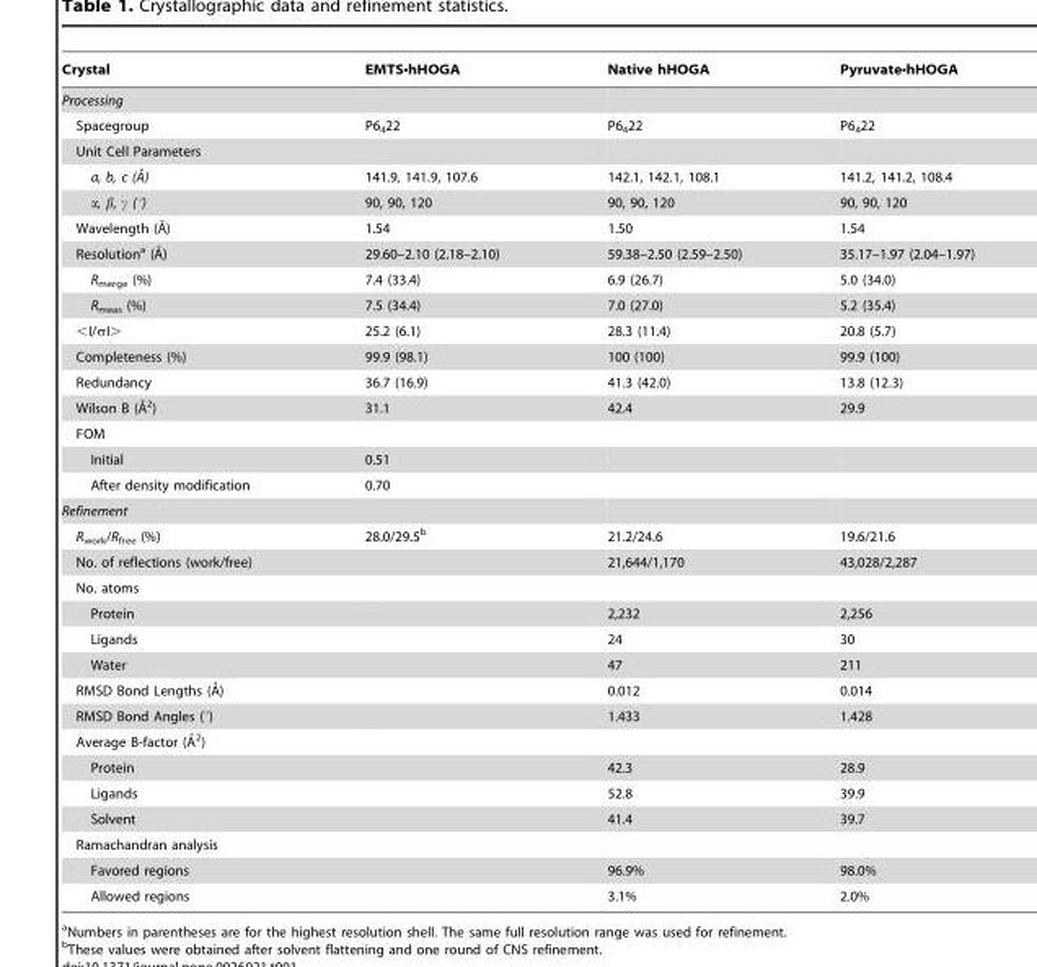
<table><thead><tr><td>Crystal</td><td>EMTS•hHOGA</td><td>Native hHOGA</td><td>Pyruvate•hHOGA</td></tr></thead><tbody><tr><td colspan="4">Processing</td></tr><tr><td>Spacegroup</td><td>P6<sub>4</sub>22</td><td>P6<sub>4</sub>22</td><td>P6<sub>4</sub>22</td></tr><tr><td colspan="4">Unit Cell Parameters</td></tr><tr><td>a, b, c (A˚)</td><td>141.9, 141.9, 107.6</td><td>142.1, 142.1, 108.1</td><td>141.2, 141.2, 108.4</td></tr><tr><td>α, β, γ (°)</td><td>90, 90, 120</td><td>90, 90, 120</td><td>90, 90, 120</td></tr><tr><td>Wavelength (A˚)</td><td>1.54</td><td>1.50</td><td>1.54</td></tr><tr><td>Resolutiona (A˚)</td><td>29.60–2.10 (2.18–2.10)</td><td>59.38–2.50 (2.59–2.50)</td><td>35.17–1.97 (2.04–1.97)</td></tr><tr><td>R<sub>merge</sub> (%)</td><td>7.4 (33.4)</td><td>6.9 (26.7)</td><td>5.0 (34.0)</td></tr><tr><td>R<sub>meas</sub> (%)</td><td>7.5 (34.4)</td><td>7.0 (27.0)</td><td>5.2 (35.4)</td></tr><tr><td>&lt;I/σI&gt;</td><td>25.2 (6.1)</td><td>28.3 (11.4)</td><td>20.8 (5.7)</td></tr><tr><td>Completeness (%)</td><td>99.9 (98.1)</td><td>100 (100)</td><td>99.9 (100)</td></tr><tr><td>Redundancy</td><td>36.7 (16.9)</td><td>41.3 (42.0)</td><td>13.8 (12.3)</td></tr><tr><td>Wilson B (A˚2)</td><td>31.1</td><td>42.4</td><td>29.9</td></tr><tr><td colspan="4">FOM</td></tr><tr><td>Initial</td><td>0.51</td><td></td><td></td></tr><tr><td>After density modification</td><td>0.70</td><td></td><td></td></tr><tr><td colspan="4">Refinement</td></tr><tr><td>R<sub>work</sub>/R<sub>free</sub> (%)</td><td>28.0/29.5<sup>b</sup></td><td>21.2/24.6</td><td>19.6/21.6</td></tr><tr><td>No. of reflections (work/free)</td><td></td><td>21,644/1,170</td><td>43,028/2,287</td></tr><tr><td colspan="4">No. atoms</td></tr><tr><td>Protein</td><td></td><td>2,232</td><td>2,256</td></tr><tr><td>Ligands</td><td></td><td>24</td><td>30</td></tr><tr><td>Water</td><td></td><td>47</td><td>211</td></tr><tr><td>RMSD Bond Lengths (A˚)</td><td></td><td>0.012</td><td>0.014</td></tr><tr><td>RMSD Bond Angles (°)</td><td></td><td>1.433</td><td>1.428</td></tr><tr><td colspan="4">Average B-factor (A˚2)</td></tr><tr><td>Protein</td><td></td><td>42.3</td><td>28.9</td></tr><tr><td>Ligands</td><td></td><td>52.8</td><td>39.9</td></tr><tr><td>Solvent</td><td></td><td>41.4</td><td>39.7</td></tr><tr><td colspan="4">Ramachandran analysis</td></tr><tr><td>Favored regions</td><td></td><td>96.9%</td><td>98.0%</td></tr><tr><td>Allowed regions</td><td></td><td>3.1%</td><td>2.0%</td></tr></tbody></table>